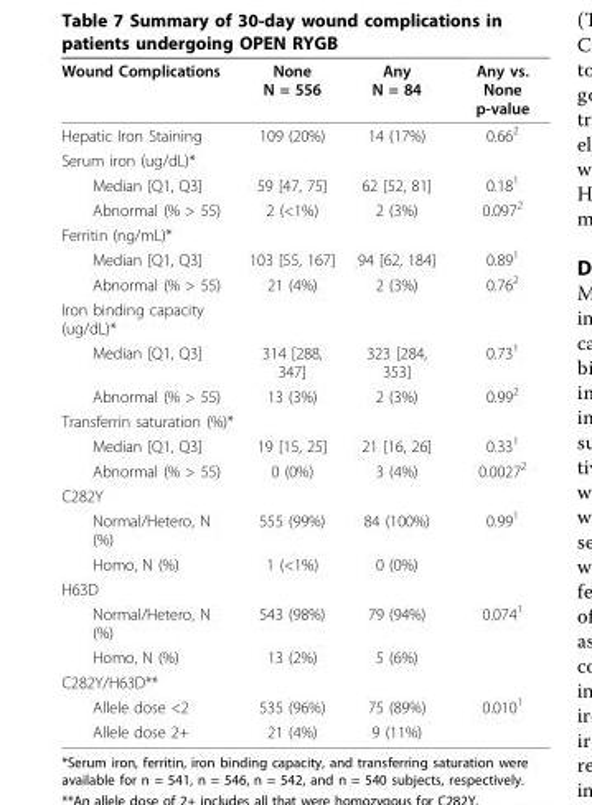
<table><thead><tr><td>Wound Complications</td><td>None N = 556</td><td>Any N = 84</td><td>Any vs. None p-value</td></tr></thead><tbody><tr><td>Hepatic Iron Staining</td><td>109 (20%)</td><td>14 (17%)</td><td>0.66<sup>2</sup></td></tr><tr><td colspan="4">Serum iron (ug/dL)*</td></tr><tr><td>Median [Q1, Q3]</td><td>59 [47, 75]</td><td>62 [52, 81]</td><td>0.18<sup>1</sup></td></tr><tr><td>Abnormal (% &gt; 55)</td><td>2 (&lt;1%)</td><td>2 (3%)</td><td>0.097<sup>2</sup></td></tr><tr><td colspan="4">Ferritin (ng/mL)*</td></tr><tr><td>Median [Q1, Q3]</td><td>103 [55, 167]</td><td>94 [62, 184]</td><td>0.89<sup>1</sup></td></tr><tr><td>Abnormal (% &gt; 55)</td><td>21 (4%)</td><td>2 (3%)</td><td>0.76<sup>2</sup></td></tr><tr><td colspan="4">Iron binding capacity (ug/dL)*</td></tr><tr><td>Median [Q1, Q3]</td><td>314 [288, 347]</td><td>323 [284, 353]</td><td>0.73<sup>1</sup></td></tr><tr><td>Abnormal (% &gt; 55)</td><td>13 (3%)</td><td>2 (3%)</td><td>0.99<sup>2</sup></td></tr><tr><td colspan="4">Transferrin saturation (%)*</td></tr><tr><td>Median [Q1, Q3]</td><td>19 [15, 25]</td><td>21 [16, 26]</td><td>0.33<sup>1</sup></td></tr><tr><td>Abnormal (% &gt; 55)</td><td>0 (0%)</td><td>3 (4%)</td><td>0.0027<sup>2</sup></td></tr><tr><td colspan="4">C282Y</td></tr><tr><td>Normal/Hetero, N (%)</td><td>555 (99%)</td><td>84 (100%)</td><td>0.99<sup>1</sup></td></tr><tr><td>Homo, N (%)</td><td>1 (&lt;1%)</td><td>0 (0%)</td><td></td></tr><tr><td colspan="4">H63D</td></tr><tr><td>Normal/Hetero, N (%)</td><td>543 (98%)</td><td>79 (94%)</td><td>0.074<sup>1</sup></td></tr><tr><td>Homo, N (%)</td><td>13 (2%)</td><td>5 (6%)</td><td></td></tr><tr><td colspan="4">C282Y/H63D**</td></tr><tr><td>Allele dose &lt;2</td><td>535 (96%)</td><td>75 (89%)</td><td>0.010<sup>1</sup></td></tr><tr><td>Allele dose 2+</td><td>21 (4%)</td><td>9 (11%)</td><td></td></tr></tbody></table>